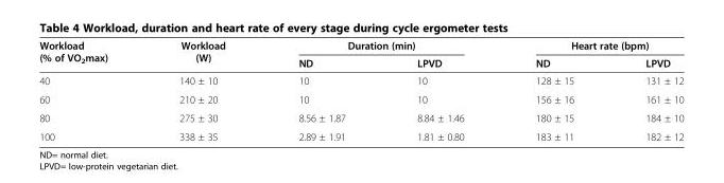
<table><thead><tr><td rowspan="2">Workload (% of VO<sub>2</sub>max)</td><td rowspan="2">Workload (W)</td><td colspan="2">Duration (min)</td><td colspan="2">Heart rate (bpm)</td></tr><tr><td>ND</td><td>LPVD</td><td>ND</td><td>LPVD</td></tr></thead><tbody><tr><td>40</td><td>140 ± 10</td><td>10</td><td>10</td><td>128 ± 15</td><td>131 ± 12</td></tr><tr><td>60</td><td>210 ± 20</td><td>10</td><td>10</td><td>156 ± 16</td><td>161 ± 10</td></tr><tr><td>80</td><td>275 ± 30</td><td>8.56 ± 1.87</td><td>8.84 ± 1.46</td><td>180 ± 15</td><td>184 ± 10</td></tr><tr><td>100</td><td>338 ± 35</td><td>2.89 ± 1.91</td><td>1.81 ± 0.80</td><td>183 ± 11</td><td>182 ± 12</td></tr></tbody></table>